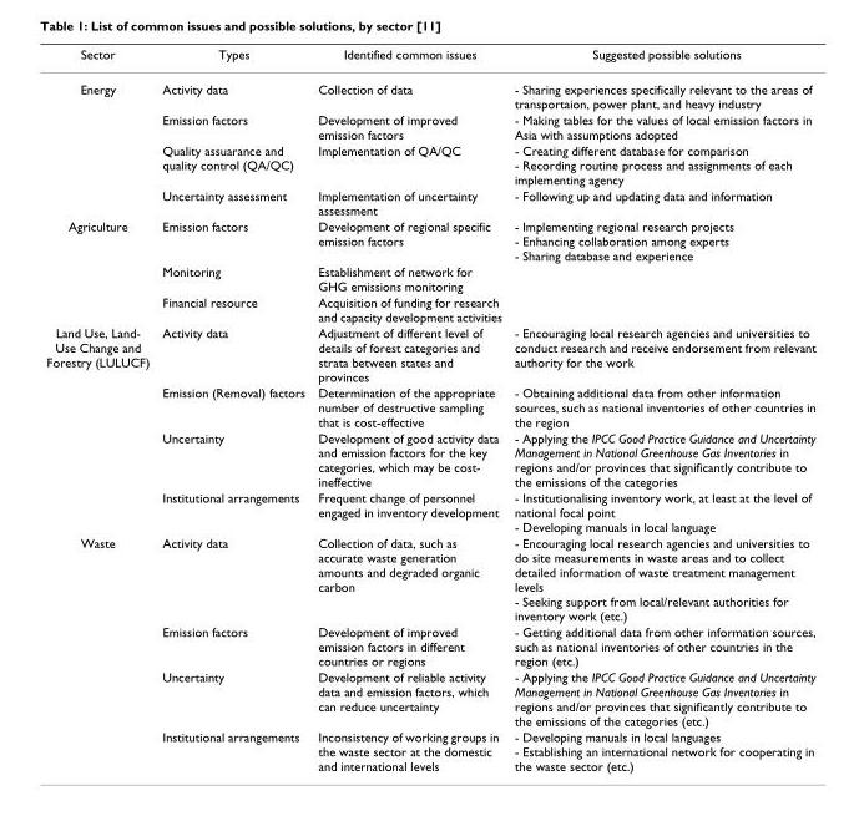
<table><thead><tr><td>Sector</td><td>Types</td><td>Identified common issues</td><td>Suggested possible solutions</td></tr></thead><tbody><tr><td rowspan="4">Energy</td><td>Activity data</td><td>Collection of data</td><td>- Sharing experiences specifically relevant to the areas of transportaion, power plant, and heavy industry</td></tr><tr><td>Emission factors</td><td>Development of improved emission factors</td><td>- Making tables for the values of local emission factors in Asia with assumptions adopted</td></tr><tr><td>Quality assuarance and quality control (QA/QC)</td><td>Implementation of QA/QC</td><td>- Creating different database for comparison - Recording routine process and assignments of each implementing agency</td></tr><tr><td>Uncertainty assessment</td><td>Implementation of uncertainty assessment</td><td>- Following up and updating data and information</td></tr><tr><td rowspan="3">Agriculture</td><td>Emission factors</td><td>Development of regional specific emission factors</td><td>- Implementing regional research projects - Enhancing collaboration among experts - Sharing database and experience</td></tr><tr><td>Monitoring</td><td>Establishment of network for GHG emissions monitoring</td><td></td></tr><tr><td>Financial resource</td><td>Acquisition of funding for research and capacity development activities</td><td></td></tr><tr><td rowspan="4">Land Use, Land- Use Change and Forestry (LULUCF)</td><td>Activity data</td><td>Adjustment of different level of details of forest categories and strata between states and provinces</td><td>- Encouraging local research agencies and universities to conduct research and receive endorsement from relevant authority for the work</td></tr><tr><td>Emission (Removal) factors</td><td>Determination of the appropriate number of destructive sampling that is cost-effective</td><td>- Obtaining additional data from other information sources, such as national inventories of other countries in the region</td></tr><tr><td>Uncertainty</td><td>Development of good activity data and emission factors for the key categories, which may be cost- ineffective</td><td>- Applying the IPCC Good Practice Guidance and Uncertainty Management in National Greenhouse Gas Inventories in regions and/or provinces that significantly contribute to the emissions of the categories</td></tr><tr><td>Institutional arrangements</td><td>Frequent change of personnel engaged in inventory development</td><td>- Institutionalising inventory work, at least at the level of national focal point - Developing manuals in local language</td></tr><tr><td rowspan="4">Waste</td><td>Activity data</td><td>Collection of data, such as accurate waste generation amounts and degraded organic carbon</td><td>- Encouraging local research agencies and universities to do site measurements in waste areas and to collect detailed information of waste treatment management levels - Seeking support from local/relevant authorities for inventory work (etc.)</td></tr><tr><td>Emission factors</td><td>Development of improved emission factors in different countries or regions</td><td>- Getting additional data from other information sources, such as national inventories of other countries in the region (etc.)</td></tr><tr><td>Uncertainty</td><td>Development of reliable activity data and emission factors, which can reduce uncertainty</td><td>- Applying the IPCC Good Practice Guidance and Uncertainty Management in National Greenhouse Gas Inventories in regions and/or provinces that significantly contribute to the emissions of the categories (etc.)</td></tr><tr><td>Institutional arrangements</td><td>Inconsistency of working groups in the waste sector at the domestic and international levels</td><td>- Developing manuals in local languages - Establishing an international network for cooperating in the waste sector (etc.)</td></tr></tbody></table>